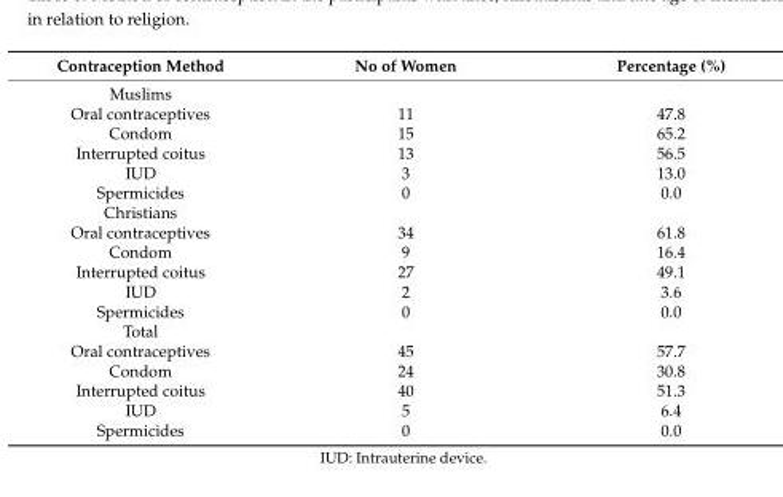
<table><thead><tr><td>Contraception Method</td><td>No of Women</td><td>Percentage (%)</td></tr></thead><tbody><tr><td colspan="3">Muslims</td></tr><tr><td>Oral contraceptives</td><td>11</td><td>47.8</td></tr><tr><td>Condom</td><td>15</td><td>65.2</td></tr><tr><td>Interrupted coitus</td><td>13</td><td>56.5</td></tr><tr><td>IUD</td><td>3</td><td>13.0</td></tr><tr><td>Spermicides</td><td>0</td><td>0.0</td></tr><tr><td colspan="3">Christians</td></tr><tr><td>Oral contraceptives</td><td>34</td><td>61.8</td></tr><tr><td>Condom</td><td>9</td><td>16.4</td></tr><tr><td>Interrupted coitus</td><td>27</td><td>49.1</td></tr><tr><td>IUD</td><td>2</td><td>3.6</td></tr><tr><td>Spermicides</td><td>0</td><td>0.0</td></tr><tr><td colspan="3">Total</td></tr><tr><td>Oral contraceptives</td><td>45</td><td>57.7</td></tr><tr><td>Condom</td><td>24</td><td>30.8</td></tr><tr><td>Interrupted coitus</td><td>40</td><td>51.3</td></tr><tr><td>IUD</td><td>5</td><td>6.4</td></tr><tr><td>Spermicides</td><td>0</td><td>0.0</td></tr></tbody></table>